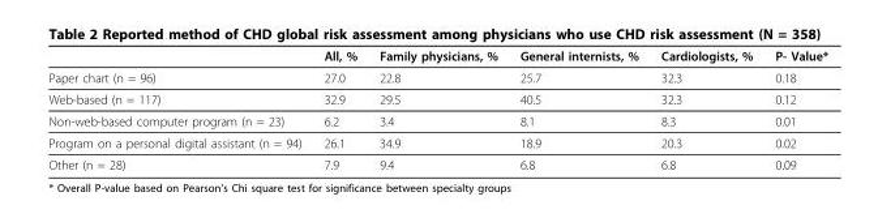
<table><thead><tr><td></td><td>All, %</td><td>Family physicians, %</td><td>General internists, %</td><td>Cardiologists, %</td><td>P- Value*</td></tr></thead><tbody><tr><td>Paper chart (n = 96)</td><td>27.0</td><td>22.8</td><td>25.7</td><td>32.3</td><td>0.18</td></tr><tr><td>Web-based (n = 117)</td><td>32.9</td><td>29.5</td><td>40.5</td><td>32.3</td><td>0.12</td></tr><tr><td>Non-web-based computer program (n = 23)</td><td>6.2</td><td>3.4</td><td>8.1</td><td>8.3</td><td>0.01</td></tr><tr><td>Program on a personal digital assistant (n = 94)</td><td>26.1</td><td>34.9</td><td>18.9</td><td>20.3</td><td>0.02</td></tr><tr><td>Other (n = 28)</td><td>7.9</td><td>9.4</td><td>6.8</td><td>6.8</td><td>0.09</td></tr></tbody></table>